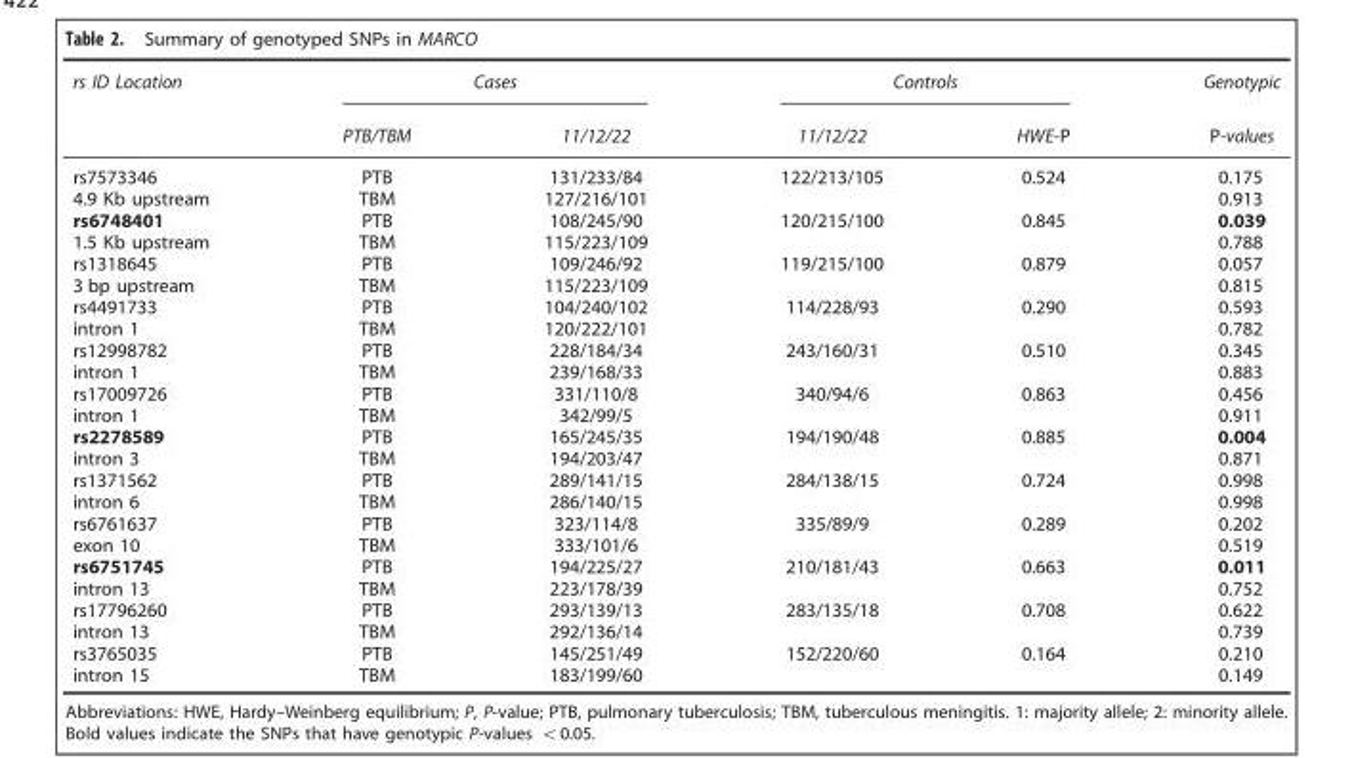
<table><thead><tr><td rowspan="2">rs ID Location</td><td colspan="2">Cases</td><td colspan="2">Controls</td><td rowspan="2">Genotypic P-values</td></tr><tr><td>PTB/TBM</td><td>11/12/22</td><td>11/12/22</td><td>HWE-P</td></tr></thead><tbody><tr><td>rs7573346</td><td>PTB</td><td>131/233/84</td><td>122/213/105</td><td>0.524</td><td>0.175</td></tr><tr><td>4.9 Kb upstream</td><td>TBM</td><td>127/216/101</td><td></td><td></td><td>0.913</td></tr><tr><td>rs6748401</td><td>PTB</td><td>108/245/90</td><td>120/215/100</td><td>0.845</td><td>0.039</td></tr><tr><td>1.5 Kb upstream</td><td>TBM</td><td>115/223/109</td><td></td><td></td><td>0.788</td></tr><tr><td>rs1318645</td><td>PTB</td><td>109/246/92</td><td>119/215/100</td><td>0.879</td><td>0.057</td></tr><tr><td>3 bp upstream</td><td>TBM</td><td>115/223/109</td><td></td><td></td><td>0.815</td></tr><tr><td>rs4491733</td><td>PTB</td><td>104/240/102</td><td>114/228/93</td><td>0.290</td><td>0.593</td></tr><tr><td>intron 1</td><td>TBM</td><td>120/222/101</td><td></td><td></td><td>0.782</td></tr><tr><td>rs12998782</td><td>PTB</td><td>228/184/34</td><td>243/160/31</td><td>0.510</td><td>0.345</td></tr><tr><td>intron 1</td><td>TBM</td><td>239/168/33</td><td></td><td></td><td>0.883</td></tr><tr><td>rs17009726</td><td>PTB</td><td>331/110/8</td><td>340/94/6</td><td>0.863</td><td>0.456</td></tr><tr><td>intron 1</td><td>TBM</td><td>342/99/5</td><td></td><td></td><td>0.911</td></tr><tr><td>rs2278589</td><td>PTB</td><td>165/245/35</td><td>194/190/48</td><td>0.885</td><td>0.004</td></tr><tr><td>intron 3</td><td>TBM</td><td>194/203/47</td><td></td><td></td><td>0.871</td></tr><tr><td>rs1371562</td><td>PTB</td><td>289/141/15</td><td>284/138/15</td><td>0.724</td><td>0.998</td></tr><tr><td>intron 6</td><td>TBM</td><td>286/140/15</td><td></td><td></td><td>0.998</td></tr><tr><td>rs6761637</td><td>PTB</td><td>323/114/8</td><td>335/89/9</td><td>0.289</td><td>0.202</td></tr><tr><td>exon 10</td><td>TBM</td><td>333/101/6</td><td></td><td></td><td>0.519</td></tr><tr><td>rs6751745</td><td>PTB</td><td>194/225/27</td><td>210/181/43</td><td>0.663</td><td>0.011</td></tr><tr><td>intron 13</td><td>TBM</td><td>223/178/39</td><td></td><td></td><td>0.752</td></tr><tr><td>rs17796260</td><td>PTB</td><td>293/139/13</td><td>283/135/18</td><td>0.708</td><td>0.622</td></tr><tr><td>intron 13</td><td>TBM</td><td>292/136/14</td><td></td><td></td><td>0.739</td></tr><tr><td>rs3765035</td><td>PTB</td><td>145/251/49</td><td>152/220/60</td><td>0.164</td><td>0.210</td></tr><tr><td>intron 15</td><td>TBM</td><td>183/199/60</td><td></td><td></td><td>0.149</td></tr></tbody></table>